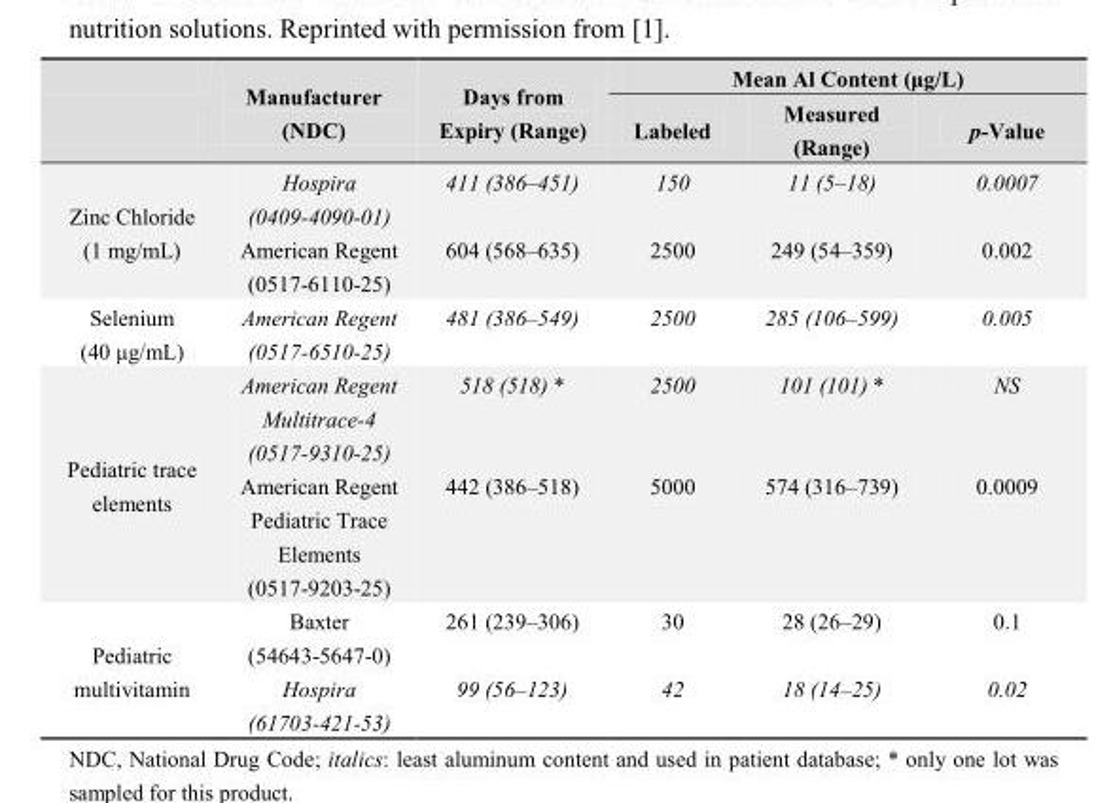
<table><thead><tr><td rowspan="2"></td><td rowspan="2">Manufacturer (NDC)</td><td rowspan="2">Days from Expiry (Range)</td><td colspan="3">Mean Al Content (μg/L)</td></tr><tr><td>Labeled</td><td>Measured (Range)</td><td>p-Value</td></tr></thead><tbody><tr><td rowspan="2">Zinc Chloride (1 mg/mL)</td><td>Hospira (0409-4090-01)</td><td>411 (386–451)</td><td>150</td><td>11 (5–18)</td><td>0.0007</td></tr><tr><td>American Regent (0517-6110-25)</td><td>604 (568–635)</td><td>2500</td><td>249 (54–359)</td><td>0.002</td></tr><tr><td>Selenium (40 μg/mL)</td><td>American Regent (0517-6510-25)</td><td>481 (386–549)</td><td>2500</td><td>285 (106–599)</td><td>0.005</td></tr><tr><td rowspan="2">Pediatric trace elements</td><td>American Regent Multitrace-4 (0517-9310-25)</td><td>518 (518) *</td><td>2500</td><td>101 (101) *</td><td>NS</td></tr><tr><td>American Regent Pediatric Trace Elements (0517-9203-25)</td><td>442 (386–518)</td><td>5000</td><td>574 (316–739)</td><td>0.0009</td></tr><tr><td rowspan="2">Pediatric multivitamin</td><td>Baxter (54643-5647-0)</td><td>261 (239–306)</td><td>30</td><td>28 (26–29)</td><td>0.1</td></tr><tr><td>Hospira (61703-421-53)</td><td>99 (56–123)</td><td>42</td><td>18 (14–25)</td><td>0.02</td></tr></tbody></table>